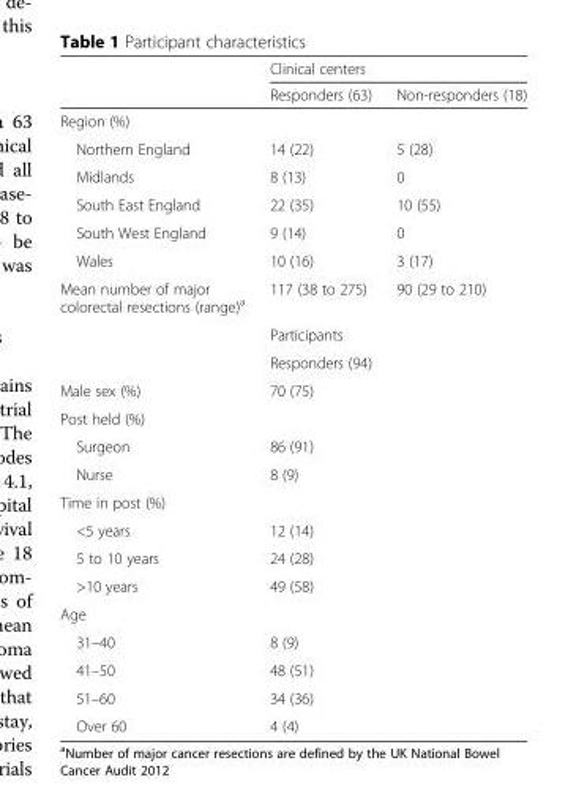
<table><thead><tr><td rowspan="2"></td><td colspan="2">Clinical centers</td></tr><tr><td>Responders (63)</td><td>Non-responders (18)</td></tr></thead><tbody><tr><td colspan="3">Region (%)</td></tr><tr><td>Northern England</td><td>14 (22)</td><td>5 (28)</td></tr><tr><td>Midlands</td><td>8 (13)</td><td>0</td></tr><tr><td>South East England</td><td>22 (35)</td><td>10 (55)</td></tr><tr><td>South West England</td><td>9 (14)</td><td>0</td></tr><tr><td>Wales</td><td>10 (16)</td><td>3 (17)</td></tr><tr><td rowspan="3">Mean number of major colorectal resections (range)<sup>a</sup></td><td>117 (38 to 275)</td><td>90 (29 to 210)</td></tr><tr><td colspan="2">Participants</td></tr><tr><td>Responders (94)</td><td></td></tr><tr><td>Male sex (%)</td><td>70 (75)</td><td></td></tr><tr><td colspan="3">Post held (%)</td></tr><tr><td>Surgeon</td><td>86 (91)</td><td></td></tr><tr><td>Nurse</td><td>8 (9)</td><td></td></tr><tr><td colspan="3">Time in post (%)</td></tr><tr><td>&lt;5 years</td><td>12 (14)</td><td></td></tr><tr><td>5 to 10 years</td><td>24 (28)</td><td></td></tr><tr><td>&gt;10 years</td><td>49 (58)</td><td></td></tr><tr><td colspan="3">Age</td></tr><tr><td>31–40</td><td>8 (9)</td><td></td></tr><tr><td>41–50</td><td>48 (51)</td><td></td></tr><tr><td>51–60</td><td>34 (36)</td><td></td></tr><tr><td>Over 60</td><td>4 (4)</td><td></td></tr></tbody></table>